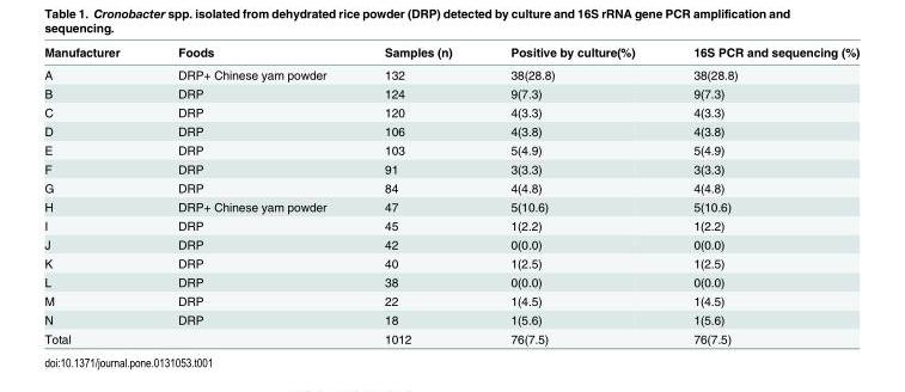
<table><thead><tr><td>Manufacturer</td><td>Foods</td><td>Samples (n)</td><td>Positive by culture(%)</td><td>16S PCR and sequencing (%)</td></tr></thead><tbody><tr><td>A</td><td>DRP+ Chinese yam powder</td><td>132</td><td>38(28.8)</td><td>38(28.8)</td></tr><tr><td>B</td><td>DRP</td><td>124</td><td>9(7.3)</td><td>9(7.3)</td></tr><tr><td>C</td><td>DRP</td><td>120</td><td>4(3.3)</td><td>4(3.3)</td></tr><tr><td>D</td><td>DRP</td><td>106</td><td>4(3.8)</td><td>4(3.8)</td></tr><tr><td>E</td><td>DRP</td><td>103</td><td>5(4.9)</td><td>5(4.9)</td></tr><tr><td>F</td><td>DRP</td><td>91</td><td>3(3.3)</td><td>3(3.3)</td></tr><tr><td>G</td><td>DRP</td><td>84</td><td>4(4.8)</td><td>4(4.8)</td></tr><tr><td>H</td><td>DRP+ Chinese yam powder</td><td>47</td><td>5(10.6)</td><td>5(10.6)</td></tr><tr><td>I</td><td>DRP</td><td>45</td><td>1(2.2)</td><td>1(2.2)</td></tr><tr><td>J</td><td>DRP</td><td>42</td><td>0(0.0)</td><td>0(0.0)</td></tr><tr><td>K</td><td>DRP</td><td>40</td><td>1(2.5)</td><td>1(2.5)</td></tr><tr><td>L</td><td>DRP</td><td>38</td><td>0(0.0)</td><td>0(0.0)</td></tr><tr><td>M</td><td>DRP</td><td>22</td><td>1(4.5)</td><td>1(4.5)</td></tr><tr><td>N</td><td>DRP</td><td>18</td><td>1(5.6)</td><td>1(5.6)</td></tr><tr><td>Total</td><td></td><td>1012</td><td>76(7.5)</td><td>76(7.5)</td></tr></tbody></table>